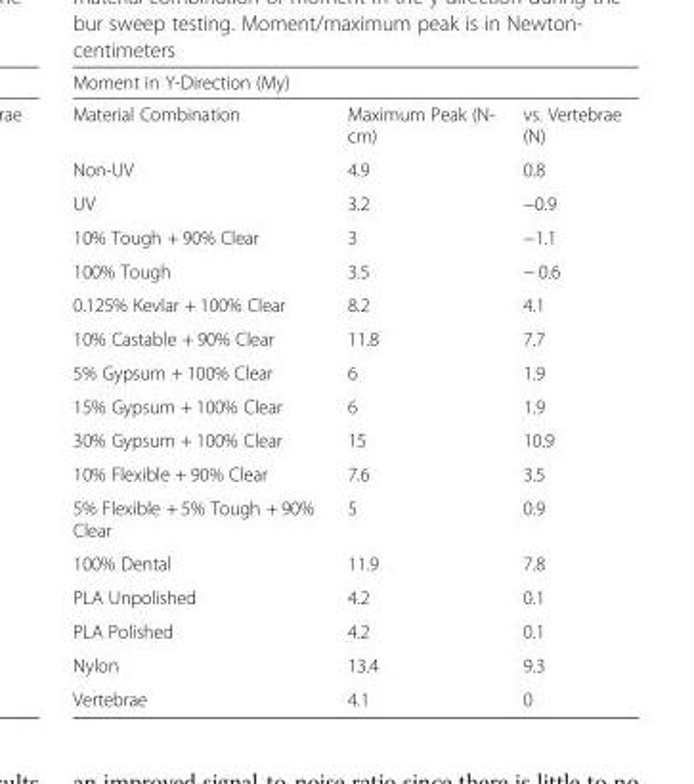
<table><thead><tr><td colspan="3">Moment in Y-Direction (My)</td></tr><tr><td>Material Combination</td><td>Maximum Peak (N- cm)</td><td>vs. Vertebrae (N)</td></tr></thead><tbody><tr><td>Non-UV</td><td>4.9</td><td>0.8</td></tr><tr><td>UV</td><td>3.2</td><td>−0.9</td></tr><tr><td>10% Tough + 90% Clear</td><td>3</td><td>−1.1</td></tr><tr><td>100% Tough</td><td>3.5</td><td>− 0.6</td></tr><tr><td>0.125% Kevlar + 100% Clear</td><td>8.2</td><td>4.1</td></tr><tr><td>10% Castable + 90% Clear</td><td>11.8</td><td>7.7</td></tr><tr><td>5% Gypsum + 100% Clear</td><td>6</td><td>1.9</td></tr><tr><td>15% Gypsum + 100% Clear</td><td>6</td><td>1.9</td></tr><tr><td>30% Gypsum + 100% Clear</td><td>15</td><td>10.9</td></tr><tr><td>10% Flexible + 90% Clear</td><td>7.6</td><td>3.5</td></tr><tr><td>5% Flexible + 5% Tough + 90% Clear</td><td>5</td><td>0.9</td></tr><tr><td>100% Dental</td><td>11.9</td><td>7.8</td></tr><tr><td>PLA Unpolished</td><td>4.2</td><td>0.1</td></tr><tr><td>PLA Polished</td><td>4.2</td><td>0.1</td></tr><tr><td>Nylon</td><td>13.4</td><td>9.3</td></tr><tr><td>Vertebrae</td><td>4.1</td><td>0</td></tr></tbody></table>